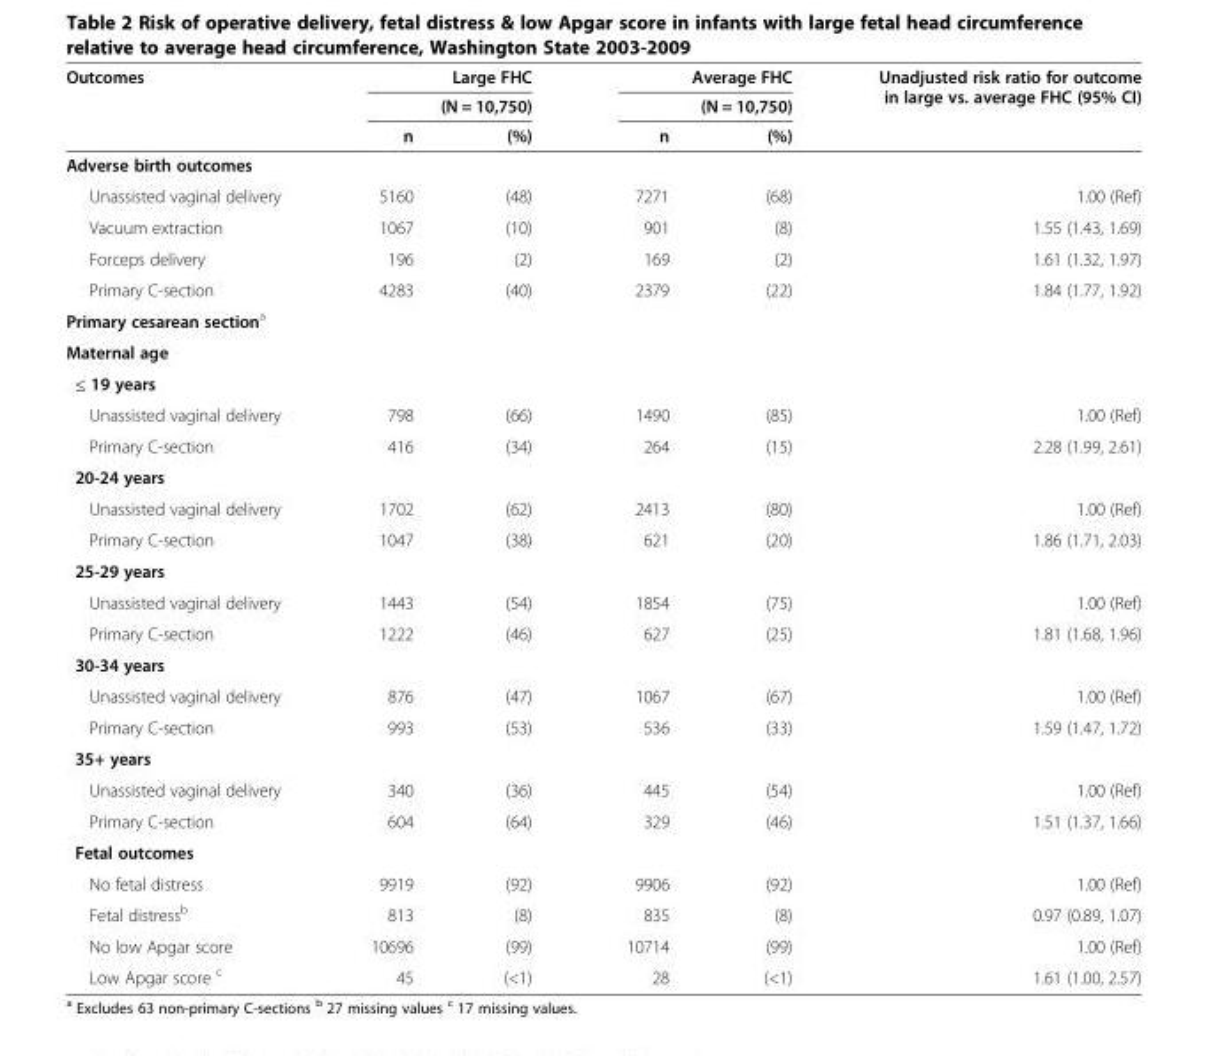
<table><thead><tr><td rowspan="3">Outcomes</td><td rowspan="2" colspan="2">Large FHC (N = 10,750)</td><td rowspan="2" colspan="2">Average FHC (N = 10,750)</td><td rowspan="3">Unadjusted risk ratio for outcome in large vs. average FHC (95% CI)</td></tr><tr></tr><tr><td>n</td><td>(%)</td><td>n</td><td>(%)</td></tr></thead><tbody><tr><td colspan="6">Adverse birth outcomes</td></tr><tr><td>Unassisted vaginal delivery</td><td>5160</td><td>(48)</td><td>7271</td><td>(68)</td><td>1.00 (Ref)</td></tr><tr><td>Vacuum extraction</td><td>1067</td><td>(10)</td><td>901</td><td>(8)</td><td>1.55 (1.43, 1.69)</td></tr><tr><td>Forceps delivery</td><td>196</td><td>(2)</td><td>169</td><td>(2)</td><td>1.61 (1.32, 1.97)</td></tr><tr><td>Primary C-section</td><td>4283</td><td>(40)</td><td>2379</td><td>(22)</td><td>1.84 (1.77, 1.92)</td></tr><tr><td colspan="6">Primary cesarean section<sup>a</sup></td></tr><tr><td colspan="6">Maternal age</td></tr><tr><td colspan="6">≤ 19 years</td></tr><tr><td>Unassisted vaginal delivery</td><td>798</td><td>(66)</td><td>1490</td><td>(85)</td><td>1.00 (Ref)</td></tr><tr><td>Primary C-section</td><td>416</td><td>(34)</td><td>264</td><td>(15)</td><td>2.28 (1.99, 2.61)</td></tr><tr><td colspan="6">20-24 years</td></tr><tr><td>Unassisted vaginal delivery</td><td>1702</td><td>(62)</td><td>2413</td><td>(80)</td><td>1.00 (Ref)</td></tr><tr><td>Primary C-section</td><td>1047</td><td>(38)</td><td>621</td><td>(20)</td><td>1.86 (1.71, 2.03)</td></tr><tr><td colspan="6">25-29 years</td></tr><tr><td>Unassisted vaginal delivery</td><td>1443</td><td>(54)</td><td>1854</td><td>(75)</td><td>1.00 (Ref)</td></tr><tr><td>Primary C-section</td><td>1222</td><td>(46)</td><td>627</td><td>(25)</td><td>1.81 (1.68, 1.96)</td></tr><tr><td colspan="6">30-34 years</td></tr><tr><td>Unassisted vaginal delivery</td><td>876</td><td>(47)</td><td>1067</td><td>(67)</td><td>1.00 (Ref)</td></tr><tr><td>Primary C-section</td><td>993</td><td>(53)</td><td>536</td><td>(33)</td><td>1.59 (1.47, 1.72)</td></tr><tr><td colspan="6">35+ years</td></tr><tr><td>Unassisted vaginal delivery</td><td>340</td><td>(36)</td><td>445</td><td>(54)</td><td>1.00 (Ref)</td></tr><tr><td>Primary C-section</td><td>604</td><td>(64)</td><td>329</td><td>(46)</td><td>1.51 (1.37, 1.66)</td></tr><tr><td colspan="6">Fetal outcomes</td></tr><tr><td>No fetal distress</td><td>9919</td><td>(92)</td><td>9906</td><td>(92)</td><td>1.00 (Ref)</td></tr><tr><td>Fetal distress<sup>b</sup></td><td>813</td><td>(8)</td><td>835</td><td>(8)</td><td>0.97 (0.89, 1.07)</td></tr><tr><td>No low Apgar score</td><td>10696</td><td>(99)</td><td>10714</td><td>(99)</td><td>1.00 (Ref)</td></tr><tr><td>Low Apgar score <sup>c</sup></td><td>45</td><td>(&lt;1)</td><td>28</td><td>(&lt;1)</td><td>1.61 (1.00, 2.57)</td></tr></tbody></table>